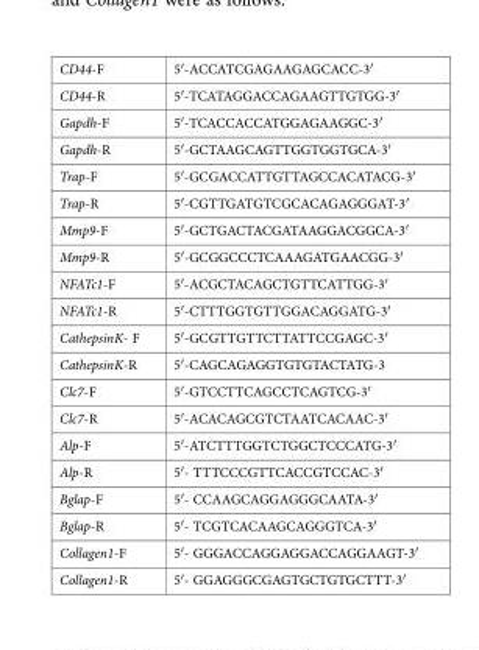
<table><tbody><tr><td>CD44-F</td><td>5′-ACCATCGAGAAGAGCACC-3′</td></tr><tr><td>CD44-R</td><td>5′-TCATAGGACCAGAAGTTGTGG-3′</td></tr><tr><td>Gapdh-F</td><td>5′-TCACCACCATGGAGAAGGC-3′</td></tr><tr><td>Gapdh-R</td><td>5′-GCTAAGCAGTTGGTGGTGCA-3′</td></tr><tr><td>Trap-F</td><td>5′-GCGACCATTGTTAGCCACATACG-3′</td></tr><tr><td>Trap-R</td><td>5′-CGTTGATGTCGCACAGAGGGAT-3′</td></tr><tr><td>Mmp9-F</td><td>5′-GCTGACTACGATAAGGACGGCA-3′</td></tr><tr><td>Mmp9-R</td><td>5′-GCGGCCCTCAAAGATGAACGG-3′</td></tr><tr><td>NFATc1-F</td><td>5′-ACGCTACAGCTGTTCATTGG-3′</td></tr><tr><td>NFATc1-R</td><td>5′-CTTTGGTGTTGGACAGGATG-3′</td></tr><tr><td>CathepsinK- F</td><td>5′-GCGTTGTTCTTATTCCGAGC-3′</td></tr><tr><td>CathepsinK-R</td><td>5′-CAGCAGAGGTGTGTACTATG-3</td></tr><tr><td>Clc7-F</td><td>5′-GTCCTTCAGCCTCAGTCG-3′</td></tr><tr><td>Clc7-R</td><td>5′-ACACAGCGTCTAATCACAAC-3′</td></tr><tr><td>Alp-F</td><td>5′-ATCTTTGGTCTGGCTCCCATG-3′</td></tr><tr><td>Alp-R</td><td>5′- TTTCCCGTTCACCGTCCAC-3′</td></tr><tr><td>Bglap-F</td><td>5′- CCAAGCAGGAGGGCAATA-3′</td></tr><tr><td>Bglap-R</td><td>5′- TCGTCACAAGCAGGGTCA-3′</td></tr><tr><td>Collagen1-F</td><td>5′- GGGACCAGGAGGACCAGGAAGT-3′</td></tr><tr><td>Collagen1-R</td><td>5′- GGAGGGCGAGTGCTGTGCTTT-3′</td></tr></tbody></table>